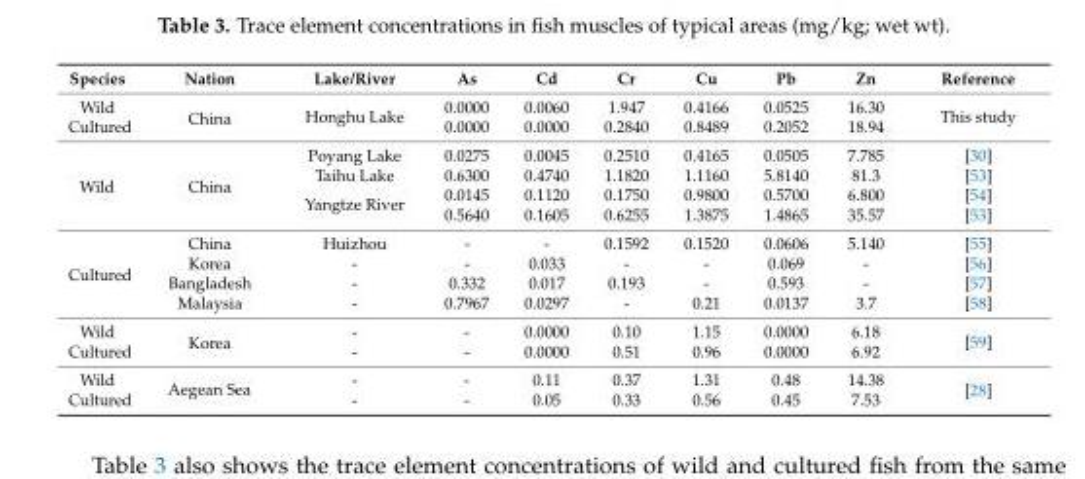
<table><thead><tr><td>Species</td><td>Nation</td><td>Lake/River</td><td>As</td><td>Cd</td><td>Cr</td><td>Cu</td><td>Pb</td><td>Zn</td><td>Reference</td></tr></thead><tbody><tr><td>Wild</td><td rowspan="2">China</td><td rowspan="2">Honghu Lake</td><td>0.0000</td><td>0.0060</td><td>1.947</td><td>0.4166</td><td>0.0525</td><td>16.30</td><td rowspan="2">This study</td></tr><tr><td>Cultured</td><td>0.0000</td><td>0.0000</td><td>0.2840</td><td>0.8489</td><td>0.2052</td><td>18.94</td></tr><tr><td rowspan="4">Wild</td><td rowspan="4">China</td><td>Poyang Lake</td><td>0.0275</td><td>0.0045</td><td>0.2510</td><td>0.4165</td><td>0.0505</td><td>7.785</td><td>[30]</td></tr><tr><td>Taihu Lake</td><td>0.6300</td><td>0.4740</td><td>1.1820</td><td>1.1160</td><td>5.8140</td><td>81.3</td><td>[53]</td></tr><tr><td rowspan="2">Yangtze River</td><td>0.0145</td><td>0.1120</td><td>0.1750</td><td>0.9800</td><td>0.5700</td><td>6.800</td><td>[54]</td></tr><tr><td>0.5640</td><td>0.1605</td><td>0.6255</td><td>1.3875</td><td>1.4865</td><td>35.57</td><td>[53]</td></tr><tr><td rowspan="4">Cultured</td><td>China</td><td>Huizhou</td><td>-</td><td>-</td><td>0.1592</td><td>0.1520</td><td>0.0606</td><td>5.140</td><td>[55]</td></tr><tr><td>Korea</td><td>-</td><td>-</td><td>0.033</td><td>-</td><td>-</td><td>0.069</td><td>-</td><td>[56]</td></tr><tr><td>Bangladesh</td><td>-</td><td>0.332</td><td>0.017</td><td>0.193</td><td>-</td><td>0.593</td><td>-</td><td>[57]</td></tr><tr><td>Malaysia</td><td>-</td><td>0.7967</td><td>0.0297</td><td>-</td><td>0.21</td><td>0.0137</td><td>3.7</td><td>[58]</td></tr><tr><td>Wild</td><td rowspan="2">Korea</td><td>-</td><td>-</td><td>0.0000</td><td>0.10</td><td>1.15</td><td>0.0000</td><td>6.18</td><td rowspan="2">[59]</td></tr><tr><td>Cultured</td><td>-</td><td>-</td><td>0.0000</td><td>0.51</td><td>0.96</td><td>0.0000</td><td>6.92</td></tr><tr><td>Wild</td><td rowspan="2">Aegean Sea</td><td>-</td><td>-</td><td>0.11</td><td>0.37</td><td>1.31</td><td>0.48</td><td>14.38</td><td rowspan="2">[28]</td></tr><tr><td>Cultured</td><td>-</td><td>-</td><td>0.05</td><td>0.33</td><td>0.56</td><td>0.45</td><td>7.53</td></tr></tbody></table>